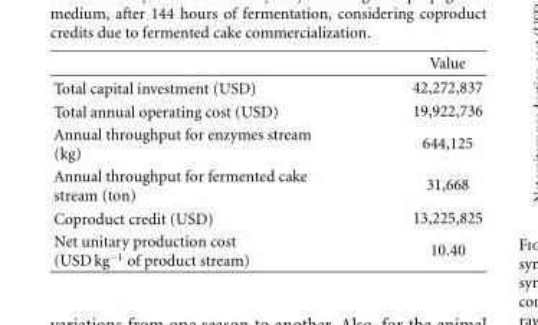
<table><thead><tr><td></td><td>Value</td></tr></thead><tbody><tr><td>Total capital investment (USD)</td><td>42,272,837</td></tr><tr><td>Total annual operating cost (USD)</td><td>19,922,736</td></tr><tr><td>Annual throughput for enzymes stream (kg)</td><td>644,125</td></tr><tr><td>Annual throughput for fermented cake stream (ton)</td><td>31,668</td></tr><tr><td>Coproduct credit (USD)</td><td>13,225,825</td></tr><tr><td>Net unitary production cost (USD kg<sup>−1</sup> of product stream)</td><td>10.40</td></tr></tbody></table>